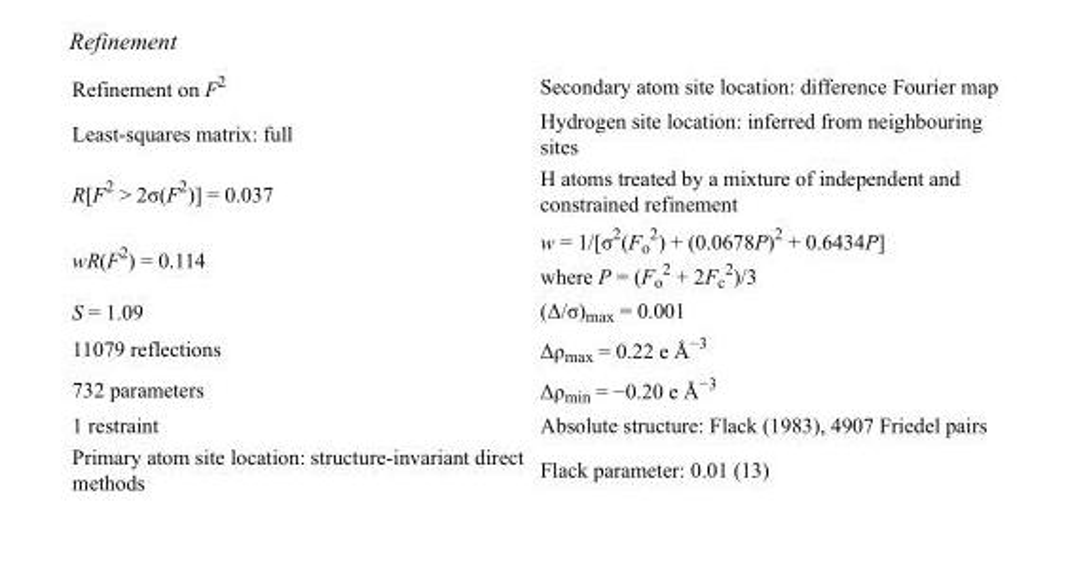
<table><tbody><tr><td>Refinement on F<sup>2</sup></td><td>Secondary atom site location: difference Fourier map</td></tr><tr><td>Least-squares matrix: full</td><td>Hydrogen site location: inferred from neighbouring sites</td></tr><tr><td>R[F<sup>2</sup> &gt; 2σ(F<sup>2</sup>)] = 0.037</td><td>H atoms treated by a mixture of independent and constrained refinement</td></tr><tr><td>wR(F<sup>2</sup>) = 0.114</td><td>w = 1/[σ<sup>2</sup>(F<sub>o</sub> <sup>2</sup>) + (0.0678P)<sup>2</sup> + 0.6434P] where P = (F<sub>o</sub> <sup>2</sup> + 2F<sub>c</sub> <sup>2</sup>)/3</td></tr><tr><td>S = 1.09</td><td>(Δ/σ)<sub>max</sub> = 0.001</td></tr><tr><td>11079 reflections</td><td>Δρ<sub>max</sub> = 0.22 e Å<sup>−3</sup></td></tr><tr><td>732 parameters</td><td>Δρ<sub>min</sub> = −0.20 e Å<sup>−3</sup></td></tr><tr><td>1 restraint</td><td>Absolute structure: Flack (1983), 4907 Friedel pairs</td></tr><tr><td>Primary atom site location: structure-invariant direct methods</td><td>Flack parameter: 0.01 (13)</td></tr></tbody></table>